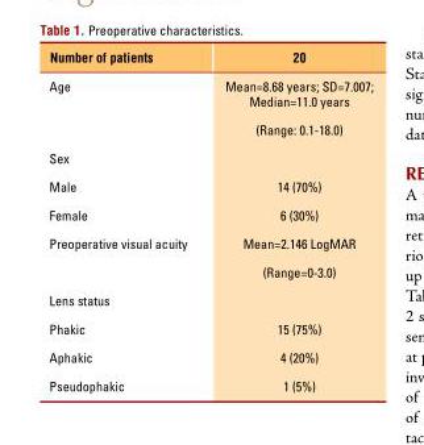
<table><thead><tr><td>Number of patients</td><td>20</td></tr></thead><tbody><tr><td rowspan="2">Age</td><td>Mean=8.68 years; SD=7.007; Median=11.0 years</td></tr><tr><td>(Range: 0.1-18.0)</td></tr><tr><td colspan="2">Sex</td></tr><tr><td>Male</td><td>14 (70%)</td></tr><tr><td>Female</td><td>6 (30%)</td></tr><tr><td rowspan="2">Preoperative visual acuity</td><td>Mean=2.146 LogMAR</td></tr><tr><td>(Range=0-3.0)</td></tr><tr><td colspan="2">Lens status</td></tr><tr><td>Phakic</td><td>15 (75%)</td></tr><tr><td>Aphakic</td><td>4 (20%)</td></tr><tr><td>Pseudophakic</td><td>1 (5%)</td></tr></tbody></table>